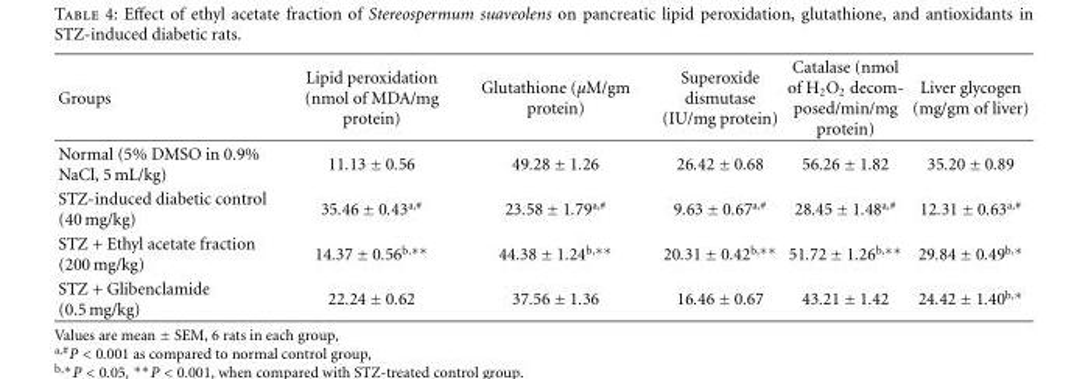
<table><thead><tr><td>Groups</td><td>Lipid peroxidation (nmol of MDA/mg protein)</td><td>Glutathione (μM/gm protein)</td><td>Superoxide dismutase (IU/mg protein)</td><td>Catalase (nmol of H2O2 decom- posed/min/mg protein)</td><td>Liver glycogen (mg/gm of liver)</td></tr></thead><tbody><tr><td>Normal (5% DMSO in 0.9% NaCl, 5 mL/kg)</td><td>11.13 ± 0.56</td><td>49.28 ± 1.26</td><td>26.42 ± 0.68</td><td>56.26 ± 1.82</td><td>35.20 ± 0.89</td></tr><tr><td>STZ-induced diabetic control (40 mg/kg)</td><td>35.46 ± 0.43<sup>a,#</sup></td><td>23.58 ± 1.79<sup>a,#</sup></td><td>9.63 ± 0.67<sup>a,#</sup></td><td>28.45 ± 1.48<sup>a,#</sup></td><td>12.31 ± 0.63<sup>a,#</sup></td></tr><tr><td>STZ + Ethyl acetate fraction (200 mg/kg)</td><td>14.37 ± 0.56<sup>b,∗∗</sup></td><td>44.38 ± 1.24<sup>b,∗∗</sup></td><td>20.31 ± 0.42<sup>b,∗∗</sup></td><td>51.72 ± 1.26<sup>b,∗∗</sup></td><td>29.84 ± 0.49<sup>b,∗</sup></td></tr><tr><td>STZ + Glibenclamide (0.5 mg/kg)</td><td>22.24 ± 0.62</td><td>37.56 ± 1.36</td><td>16.46 ± 0.67</td><td>43.21 ± 1.42</td><td>24.42 ± 1.40<sup>b,∗</sup></td></tr></tbody></table>